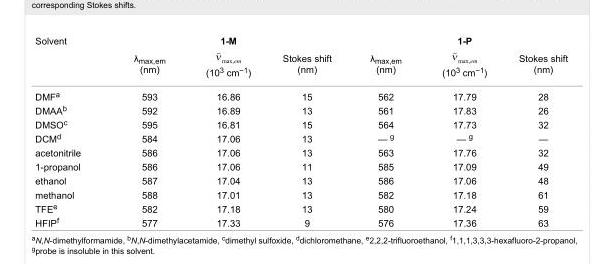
<table><tbody><tr><td rowspan="2">Solvent</td><td colspan="3">1-M</td><td colspan="3">1-P</td></tr><tr><td>λ<sub>max,em</sub> (nm)</td><td>(10<sup>3</sup> cm<sup>−1</sup>)</td><td>Stokes shift (nm)</td><td>λ<sub>max,em</sub> (nm)</td><td>(10<sup>3</sup> cm<sup>−1</sup>)</td><td>Stokes shift (nm)</td></tr><tr><td>DMF<sup>a</sup></td><td>593</td><td>16.86</td><td>15</td><td>562</td><td>17.79</td><td>28</td></tr><tr><td>DMAA<sup>b</sup></td><td>592</td><td>16.89</td><td>13</td><td>561</td><td>17.83</td><td>26</td></tr><tr><td>DMSO<sup>c</sup></td><td>595</td><td>16.81</td><td>15</td><td>564</td><td>17.73</td><td>32</td></tr><tr><td>DCM<sup>d</sup></td><td>584</td><td>17.06</td><td>13</td><td>— <sup>g</sup></td><td>— <sup>g</sup></td><td>—</td></tr><tr><td>acetonitrile</td><td>586</td><td>17.06</td><td>13</td><td>563</td><td>17.76</td><td>32</td></tr><tr><td>1-propanol</td><td>586</td><td>17.06</td><td>11</td><td>585</td><td>17.09</td><td>49</td></tr><tr><td>ethanol</td><td>587</td><td>17.04</td><td>13</td><td>586</td><td>17.06</td><td>48</td></tr><tr><td>methanol</td><td>588</td><td>17.01</td><td>13</td><td>582</td><td>17.18</td><td>61</td></tr><tr><td>TFE<sup>e</sup></td><td>582</td><td>17.18</td><td>13</td><td>580</td><td>17.24</td><td>59</td></tr><tr><td>HFIP<sup>f</sup></td><td>577</td><td>17.33</td><td>9</td><td>576</td><td>17.36</td><td>63</td></tr></tbody></table>